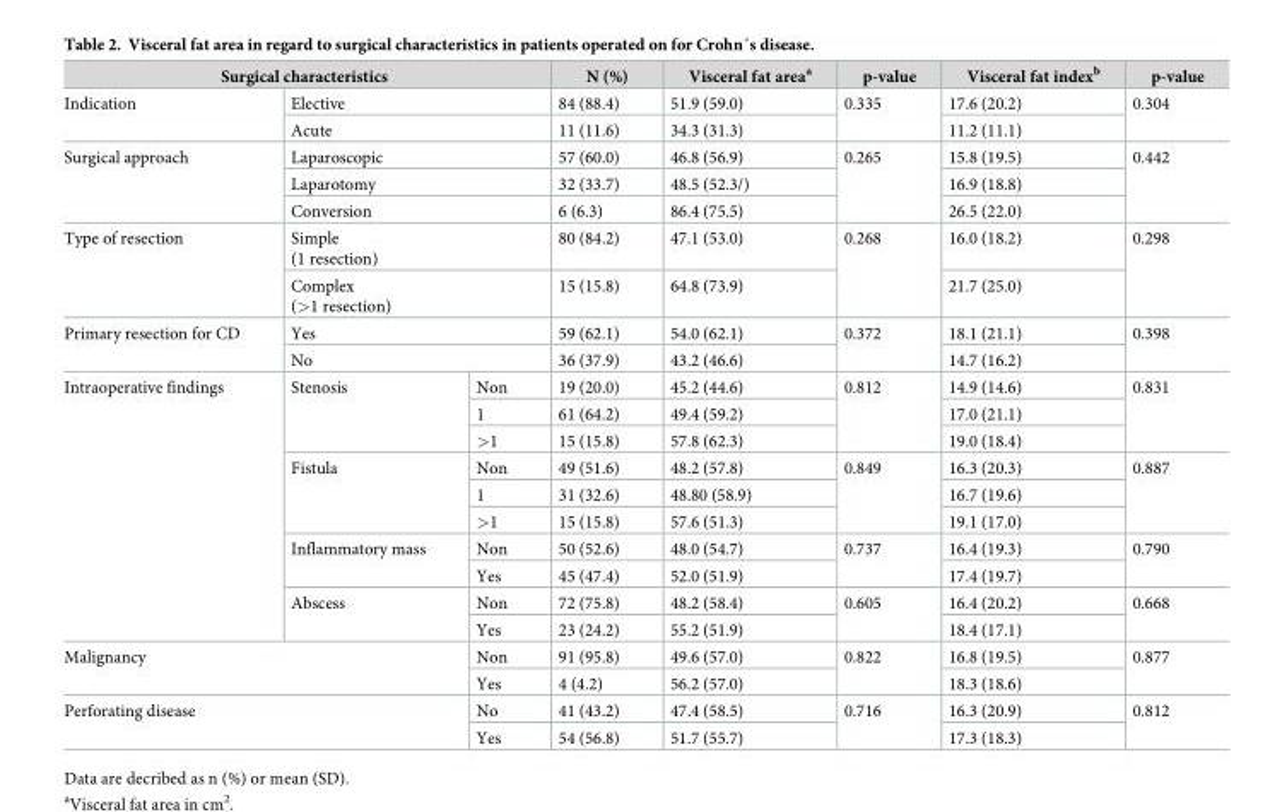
<table><thead><tr><td colspan="3">Surgical characteristics</td><td>N (%)</td><td>Visceral fat area<sup>a</sup></td><td>p-value</td><td>Visceral fat index<sup>b</sup></td><td>p-value</td></tr></thead><tbody><tr><td rowspan="2">Indication</td><td colspan="2">Elective</td><td>84 (88.4)</td><td>51.9 (59.0)</td><td rowspan="2">0.335</td><td>17.6 (20.2)</td><td rowspan="2">0.304</td></tr><tr><td colspan="2">Acute</td><td>11 (11.6)</td><td>34.3 (31.3)</td><td>11.2 (11.1)</td></tr><tr><td rowspan="3">Surgical approach</td><td colspan="2">Laparoscopic</td><td>57 (60.0)</td><td>46.8 (56.9)</td><td rowspan="3">0.265</td><td>15.8 (19.5)</td><td rowspan="3">0.442</td></tr><tr><td colspan="2">Laparotomy</td><td>32 (33.7)</td><td>48.5 (52.3/)</td><td>16.9 (18.8)</td></tr><tr><td colspan="2">Conversion</td><td>6 (6.3)</td><td>86.4 (75.5)</td><td>26.5 (22.0)</td></tr><tr><td rowspan="2">Type of resection</td><td colspan="2">Simple (1 resection)</td><td>80 (84.2)</td><td>47.1 (53.0)</td><td rowspan="2">0.268</td><td>16.0 (18.2)</td><td rowspan="2">0.298</td></tr><tr><td colspan="2">Complex (&gt;1 resection)</td><td>15 (15.8)</td><td>64.8 (73.9)</td><td>21.7 (25.0)</td></tr><tr><td rowspan="2">Primary resection for CD</td><td colspan="2">Yes</td><td>59 (62.1)</td><td>54.0 (62.1)</td><td rowspan="2">0.372</td><td>18.1 (21.1)</td><td rowspan="2">0.398</td></tr><tr><td colspan="2">No</td><td>36 (37.9)</td><td>43.2 (46.6)</td><td>14.7 (16.2)</td></tr><tr><td rowspan="10">Intraoperative findings</td><td rowspan="3">Stenosis</td><td>Non</td><td>19 (20.0)</td><td>45.2 (44.6)</td><td rowspan="3">0.812</td><td>14.9 (14.6)</td><td rowspan="3">0.831</td></tr><tr><td>1</td><td>61 (64.2)</td><td>49.4 (59.2)</td><td>17.0 (21.1)</td></tr><tr><td>&gt;1</td><td>15 (15.8)</td><td>57.8 (62.3)</td><td>19.0 (18.4)</td></tr><tr><td rowspan="3">Fistula</td><td>Non</td><td>49 (51.6)</td><td>48.2 (57.8)</td><td rowspan="3">0.849</td><td>16.3 (20.3)</td><td rowspan="3">0.887</td></tr><tr><td>1</td><td>31 (32.6)</td><td>48.80 (58.9)</td><td>16.7 (19.6)</td></tr><tr><td>&gt;1</td><td>15 (15.8)</td><td>57.6 (51.3)</td><td>19.1 (17.0)</td></tr><tr><td rowspan="2">Inflammatory mass</td><td>Non</td><td>50 (52.6)</td><td>48.0 (54.7)</td><td rowspan="2">0.737</td><td>16.4 (19.3)</td><td rowspan="2">0.790</td></tr><tr><td>Yes</td><td>45 (47.4)</td><td>52.0 (51.9)</td><td>17.4 (19.7)</td></tr><tr><td rowspan="2">Abscess</td><td>Non</td><td>72 (75.8)</td><td>48.2 (58.4)</td><td rowspan="2">0.605</td><td>16.4 (20.2)</td><td rowspan="2">0.668</td></tr><tr><td>Yes</td><td>23 (24.2)</td><td>55.2 (51.9)</td><td>18.4 (17.1)</td></tr><tr><td rowspan="2" colspan="2">Malignancy</td><td>Non</td><td>91 (95.8)</td><td>49.6 (57.0)</td><td rowspan="2">0.822</td><td>16.8 (19.5)</td><td rowspan="2">0.877</td></tr><tr><td>Yes</td><td>4 (4.2)</td><td>56.2 (57.0)</td><td>18.3 (18.6)</td></tr><tr><td rowspan="2" colspan="2">Perforating disease</td><td>No</td><td>41 (43.2)</td><td>47.4 (58.5)</td><td rowspan="2">0.716</td><td>16.3 (20.9)</td><td rowspan="2">0.812</td></tr><tr><td>Yes</td><td>54 (56.8)</td><td>51.7 (55.7)</td><td>17.3 (18.3)</td></tr></tbody></table>